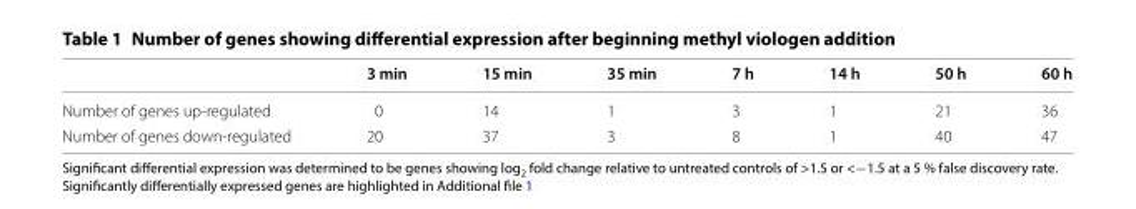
<table><thead><tr><td></td><td>3 min</td><td>15 min</td><td>35 min</td><td>7 h</td><td>14 h</td><td>50 h</td><td>60 h</td></tr></thead><tbody><tr><td>Number of genes up-regulated</td><td>0</td><td>14</td><td>1</td><td>3</td><td>1</td><td>21</td><td>36</td></tr><tr><td>Number of genes down-regulated</td><td>20</td><td>37</td><td>3</td><td>8</td><td>1</td><td>40</td><td>47</td></tr></tbody></table>